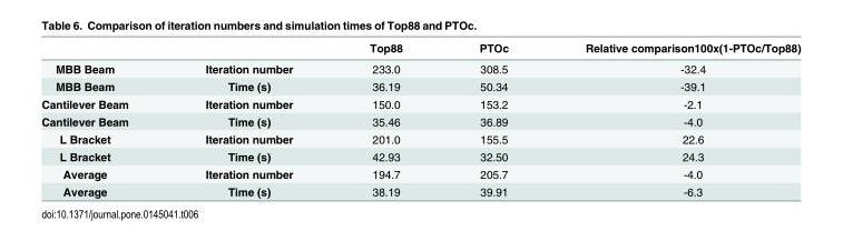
<table><thead><tr><td></td><td></td><td>Top88</td><td>PTOc</td><td>Relative comparison100x(1-PTOc/Top88)</td></tr></thead><tbody><tr><td>MBB Beam</td><td>Iteration number</td><td>233.0</td><td>308.5</td><td>-32.4</td></tr><tr><td>MBB Beam</td><td>Time (s)</td><td>36.19</td><td>50.34</td><td>-39.1</td></tr><tr><td>Cantilever Beam</td><td>Iteration number</td><td>150.0</td><td>153.2</td><td>-2.1</td></tr><tr><td>Cantilever Beam</td><td>Time (s)</td><td>35.46</td><td>36.89</td><td>-4.0</td></tr><tr><td>L Bracket</td><td>Iteration number</td><td>201.0</td><td>155.5</td><td>22.6</td></tr><tr><td>L Bracket</td><td>Time (s)</td><td>42.93</td><td>32.50</td><td>24.3</td></tr><tr><td>Average</td><td>Iteration number</td><td>194.7</td><td>205.7</td><td>-4.0</td></tr><tr><td>Average</td><td>Time (s)</td><td>38.19</td><td>39.91</td><td>-6.3</td></tr></tbody></table>